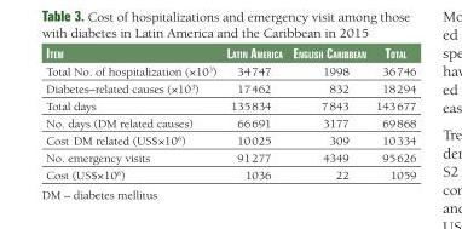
<table><thead><tr><td>Item</td><td>LatIn amerIca</td><td>engLIsh carIbbean</td><td>totaL</td></tr></thead><tbody><tr><td>Total No. of hospitalization (×10<sup>3</sup>)</td><td>34 747</td><td>1998</td><td>36 746</td></tr><tr><td>Diabetes–related causes (×10<sup>3</sup>)</td><td>17 462</td><td>832</td><td>18 294</td></tr><tr><td>Total days</td><td>135 834</td><td>7 843</td><td>143 677</td></tr><tr><td>No. days (DM related causes)</td><td>66 691</td><td>3177</td><td>69 868</td></tr><tr><td>Cost DM related (US$×10<sup>6</sup>)</td><td>10 025</td><td>309</td><td>10 334</td></tr><tr><td>No. emergency visits</td><td>91 277</td><td>4349</td><td>95 626</td></tr><tr><td>Cost (US$×10<sup>6</sup>)</td><td>1036</td><td>22</td><td>1059</td></tr></tbody></table>